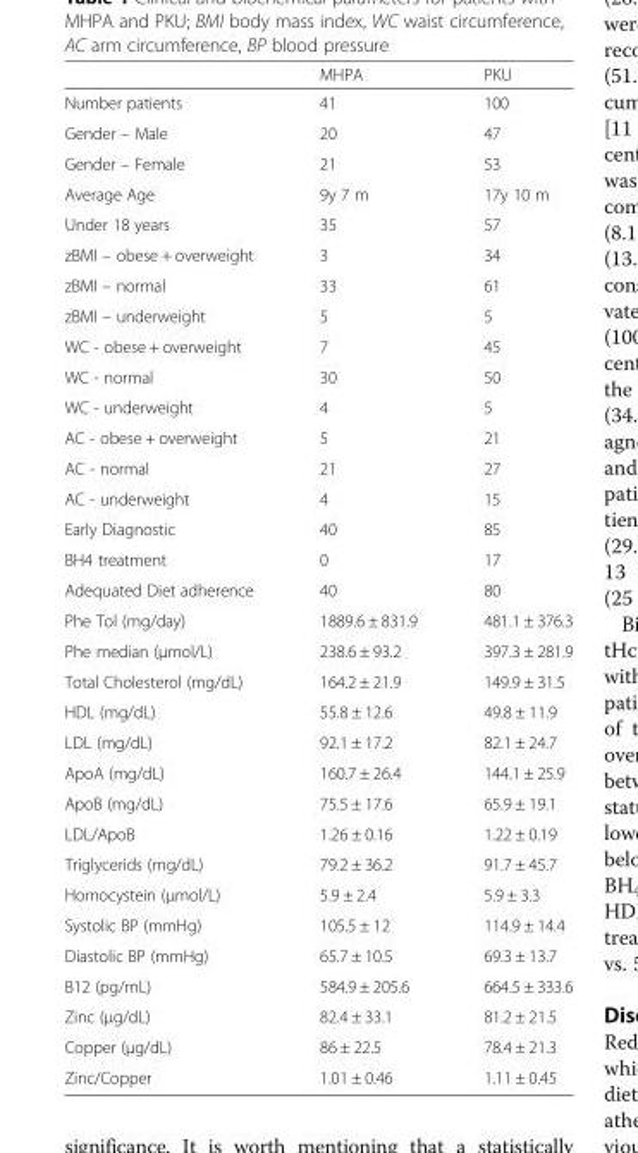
<table><thead><tr><td></td><td>MHPA</td><td>PKU</td></tr></thead><tbody><tr><td>Number patients</td><td>41</td><td>100</td></tr><tr><td>Gender – Male</td><td>20</td><td>47</td></tr><tr><td>Gender – Female</td><td>21</td><td>53</td></tr><tr><td>Average Age</td><td>9y 7 m</td><td>17y 10 m</td></tr><tr><td>Under 18 years</td><td>35</td><td>57</td></tr><tr><td>zBMI – obese + overweight</td><td>3</td><td>34</td></tr><tr><td>zBMI – normal</td><td>33</td><td>61</td></tr><tr><td>zBMI – underweight</td><td>5</td><td>5</td></tr><tr><td>WC - obese + overweight</td><td>7</td><td>45</td></tr><tr><td>WC - normal</td><td>30</td><td>50</td></tr><tr><td>WC - underweight</td><td>4</td><td>5</td></tr><tr><td>AC - obese + overweight</td><td>5</td><td>21</td></tr><tr><td>AC - normal</td><td>21</td><td>27</td></tr><tr><td>AC - underweight</td><td>4</td><td>15</td></tr><tr><td>Early Diagnostic</td><td>40</td><td>85</td></tr><tr><td>BH4 treatment</td><td>0</td><td>17</td></tr><tr><td>Adequated Diet adherence</td><td>40</td><td>80</td></tr><tr><td>Phe Tol (mg/day)</td><td>1889.6 ± 831.9</td><td>481.1 ± 376.3</td></tr><tr><td>Phe median (μmol/L)</td><td>238.6 ± 93.2</td><td>397.3 ± 281.9</td></tr><tr><td>Total Cholesterol (mg/dL)</td><td>164.2 ± 21.9</td><td>149.9 ± 31.5</td></tr><tr><td>HDL (mg/dL)</td><td>55.8 ± 12.6</td><td>49.8 ± 11.9</td></tr><tr><td>LDL (mg/dL)</td><td>92.1 ± 17.2</td><td>82.1 ± 24.7</td></tr><tr><td>ApoA (mg/dL)</td><td>160.7 ± 26.4</td><td>144.1 ± 25.9</td></tr><tr><td>ApoB (mg/dL)</td><td>75.5 ± 17.6</td><td>65.9 ± 19.1</td></tr><tr><td>LDL/ApoB</td><td>1.26 ± 0.16</td><td>1.22 ± 0.19</td></tr><tr><td>Triglycerids (mg/dL)</td><td>79.2 ± 36.2</td><td>91.7 ± 45.7</td></tr><tr><td>Homocystein (μmol/L)</td><td>5.9 ± 2.4</td><td>5.9 ± 3.3</td></tr><tr><td>Systolic BP (mmHg)</td><td>105.5 ± 12</td><td>114.9 ± 14.4</td></tr><tr><td>Diastolic BP (mmHg)</td><td>65.7 ± 10.5</td><td>69.3 ± 13.7</td></tr><tr><td>B12 (pg/mL)</td><td>584.9 ± 205.6</td><td>664.5 ± 333.6</td></tr><tr><td>Zinc (μg/dL)</td><td>82.4 ± 33.1</td><td>81.2 ± 21.5</td></tr><tr><td>Copper (μg/dL)</td><td>86 ± 22.5</td><td>78.4 ± 21.3</td></tr><tr><td>Zinc/Copper</td><td>1.01 ± 0.46</td><td>1.11 ± 0.45</td></tr></tbody></table>